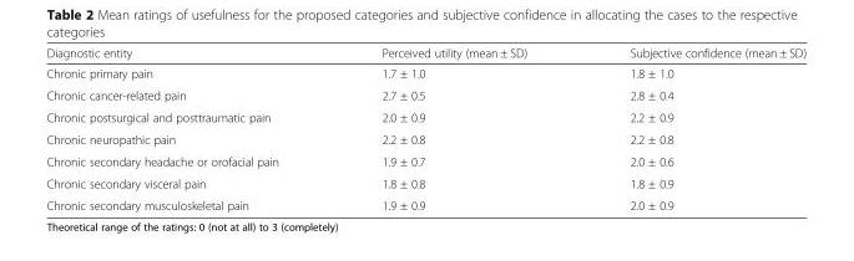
<table><thead><tr><td>Diagnostic entity</td><td>Perceived utility (mean ± SD)</td><td>Subjective confidence (mean ± SD)</td></tr></thead><tbody><tr><td>Chronic primary pain</td><td>1.7 ± 1.0</td><td>1.8 ± 1.0</td></tr><tr><td>Chronic cancer-related pain</td><td>2.7 ± 0.5</td><td>2.8 ± 0.4</td></tr><tr><td>Chronic postsurgical and posttraumatic pain</td><td>2.0 ± 0.9</td><td>2.2 ± 0.9</td></tr><tr><td>Chronic neuropathic pain</td><td>2.2 ± 0.8</td><td>2.2 ± 0.8</td></tr><tr><td>Chronic secondary headache or orofacial pain</td><td>1.9 ± 0.7</td><td>2.0 ± 0.6</td></tr><tr><td>Chronic secondary visceral pain</td><td>1.8 ± 0.8</td><td>1.8 ± 0.9</td></tr><tr><td>Chronic secondary musculoskeletal pain</td><td>1.9 ± 0.9</td><td>2.0 ± 0.9</td></tr></tbody></table>